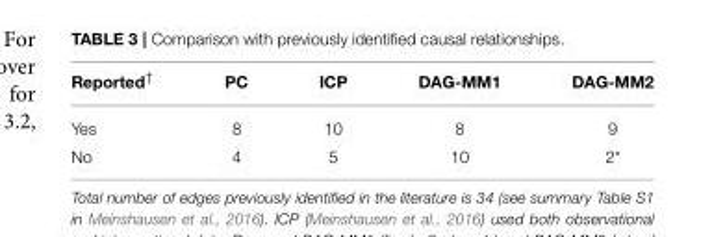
<table><thead><tr><td>Reported<sup>†</sup></td><td>PC</td><td>ICP</td><td>DAG-MM1</td><td>DAG-MM2</td></tr></thead><tbody><tr><td>Yes</td><td>8</td><td>10</td><td>8</td><td>9</td></tr><tr><td>No</td><td>4</td><td>5</td><td>10</td><td>2*</td></tr></tbody></table>